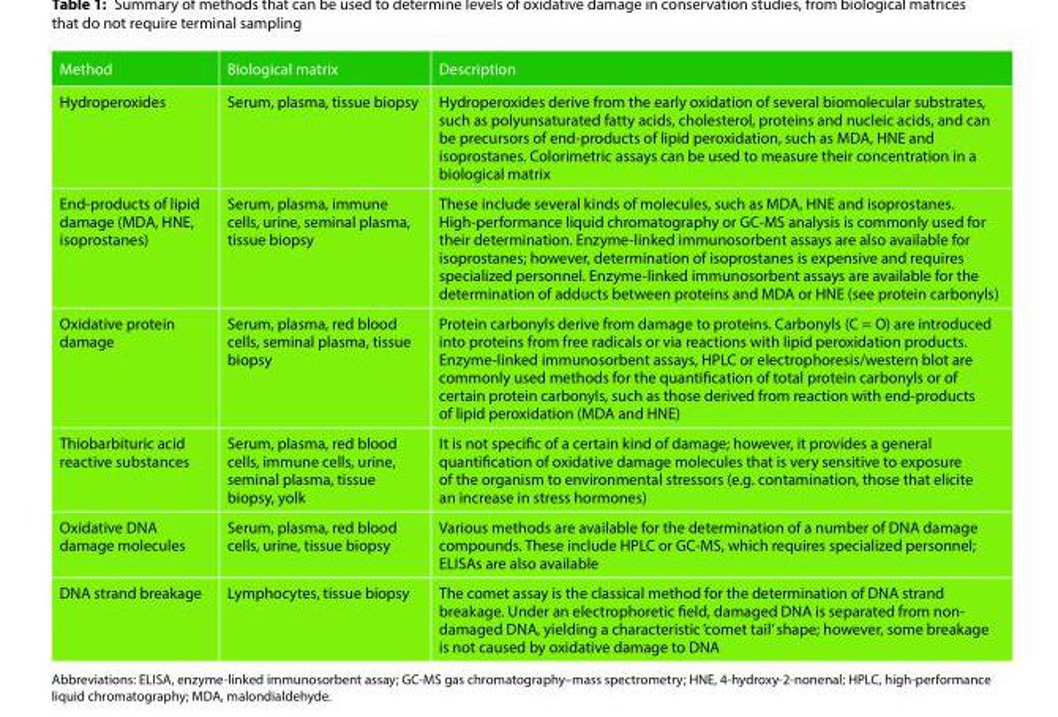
<table><thead><tr><td>Method</td><td>Biological matrix</td><td>Description</td></tr></thead><tbody><tr><td>Hydroperoxides</td><td>Serum, plasma, tissue biopsy</td><td>Hydroperoxides derive from the early oxidation of several biomolecular substrates, such as polyunsaturated fatty acids, cholesterol, proteins and nucleic acids, and can be precursors of end-products of lipid peroxidation, such as MDA, HNE and isoprostanes. Colorimetric assays can be used to measure their concentration in a biological matrix</td></tr><tr><td>End-products of lipid damage (MDA, HNE, isoprostanes)</td><td>Serum, plasma, immune cells, urine, seminal plasma, tissue biopsy</td><td>These include several kinds of molecules, such as MDA, HNE and isoprostanes. High-performance liquid chromatography or GC-MS analysis is commonly used for their determination. Enzyme-linked immunosorbent assays are also available for isoprostanes; however, determination of isoprostanes is expensive and requires specialized personnel. Enzyme-linked immunosorbent assays are available for the determination of adducts between proteins and MDA or HNE (see protein carbonyls)</td></tr><tr><td>Oxidative protein damage</td><td>Serum, plasma, red blood cells, seminal plasma, tissue biopsy</td><td>Protein carbonyls derive from damage to proteins. Carbonyls (C = O) are introduced into proteins from free radicals or via reactions with lipid peroxidation products. Enzyme-linked immunosorbent assays, HPLC or electrophoresis/western blot are commonly used methods for the quantification of total protein carbonyls or of certain protein carbonyls, such as those derived from reaction with end-products of lipid peroxidation (MDA and HNE)</td></tr><tr><td>Thiobarbituric acid reactive substances</td><td>Serum, plasma, red blood cells, immune cells, urine, seminal plasma, tissue biopsy, yolk</td><td>It is not specific of a certain kind of damage; however, it provides a general quantification of oxidative damage molecules that is very sensitive to exposure of the organism to environmental stressors (e.g. contamination, those that elicite an increase in stress hormones)</td></tr><tr><td>Oxidative DNA damage molecules</td><td>Serum, plasma, red blood cells, urine, tissue biopsy</td><td>Various methods are available for the determination of a number of DNA damage compounds. These include HPLC or GC-MS, which requires specialized personnel; ELISAs are also available</td></tr><tr><td>DNA strand breakage</td><td>Lymphocytes, tissue biopsy</td><td>The comet assay is the classical method for the determination of DNA strand breakage. Under an electrophoretic field, damaged DNA is separated from non- damaged DNA, yielding a characteristic ‘comet tail’ shape; however, some breakage is not caused by oxidative damage to DNA</td></tr></tbody></table>